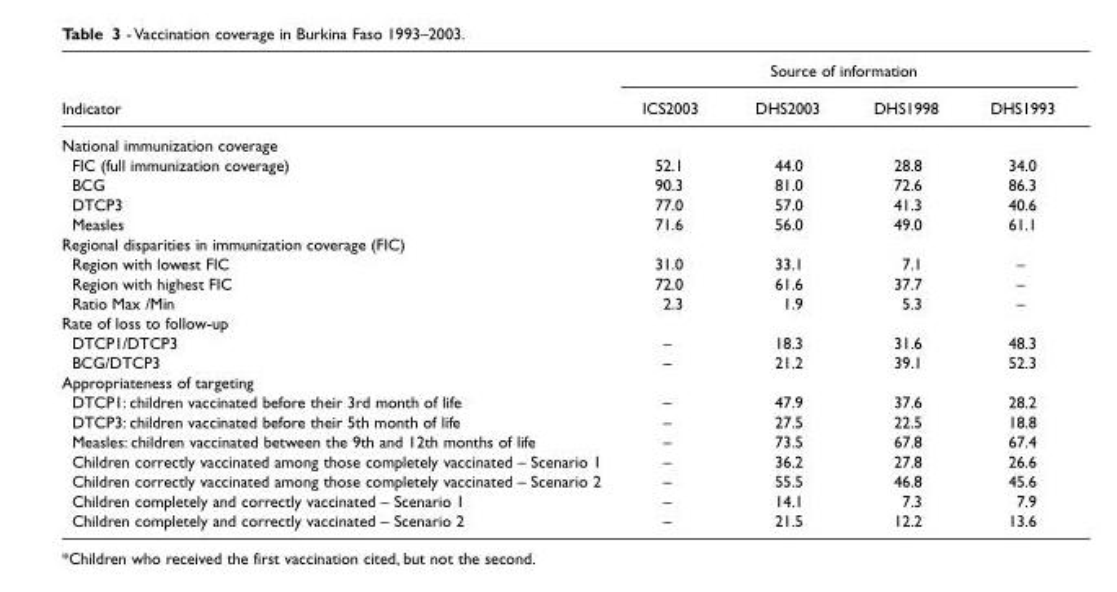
<table><thead><tr><td rowspan="2">Indicator</td><td colspan="4">Source of information</td></tr><tr><td>ICS2003</td><td>DHS2003</td><td>DHS1998</td><td>DHS1993</td></tr></thead><tbody><tr><td colspan="5">National immunization coverage</td></tr><tr><td>FIC (full immunization coverage)</td><td>52.1</td><td>44.0</td><td>28.8</td><td>34.0</td></tr><tr><td>BCG</td><td>90.3</td><td>81.0</td><td>72.6</td><td>86.3</td></tr><tr><td>DTCP3</td><td>77.0</td><td>57.0</td><td>41.3</td><td>40.6</td></tr><tr><td>Measles</td><td>71.6</td><td>56.0</td><td>49.0</td><td>61.1</td></tr><tr><td colspan="5">Regional disparities in immunization coverage (FIC)</td></tr><tr><td>Region with lowest FIC</td><td>31.0</td><td>33.1</td><td>7.1</td><td>–</td></tr><tr><td>Region with highest FIC</td><td>72.0</td><td>61.6</td><td>37.7</td><td>–</td></tr><tr><td>Ratio Max /Min</td><td>2.3</td><td>1.9</td><td>5.3</td><td>–</td></tr><tr><td colspan="5">Rate of loss to follow-up</td></tr><tr><td>DTCP1/DTCP3</td><td>–</td><td>18.3</td><td>31.6</td><td>48.3</td></tr><tr><td>BCG/DTCP3</td><td>–</td><td>21.2</td><td>39.1</td><td>52.3</td></tr><tr><td colspan="5">Appropriateness of targeting</td></tr><tr><td>DTCP1: children vaccinated before their 3rd month of life</td><td>–</td><td>47.9</td><td>37.6</td><td>28.2</td></tr><tr><td>DTCP3: children vaccinated before their 5th month of life</td><td>–</td><td>27.5</td><td>22.5</td><td>18.8</td></tr><tr><td>Measles: children vaccinated between the 9th and 12th months of life</td><td>–</td><td>73.5</td><td>67.8</td><td>67.4</td></tr><tr><td>Children correctly vaccinated among those completely vaccinated – Scenario 1</td><td>–</td><td>36.2</td><td>27.8</td><td>26.6</td></tr><tr><td>Children correctly vaccinated among those completely vaccinated – Scenario 2</td><td>–</td><td>55.5</td><td>46.8</td><td>45.6</td></tr><tr><td>Children completely and correctly vaccinated – Scenario 1</td><td>–</td><td>14.1</td><td>7.3</td><td>7.9</td></tr><tr><td>Children completely and correctly vaccinated – Scenario 2</td><td>–</td><td>21.5</td><td>12.2</td><td>13.6</td></tr></tbody></table>